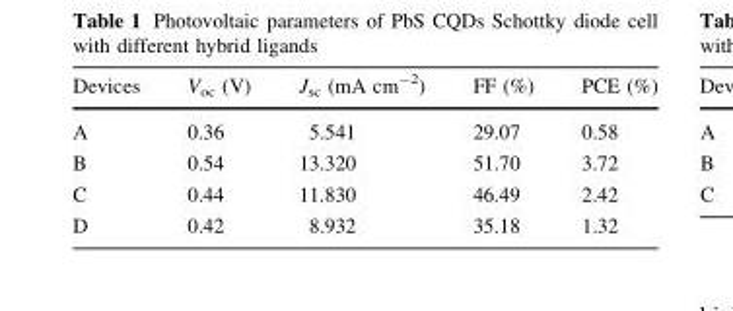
<table><thead><tr><td>Devices</td><td>V<sub>oc</sub> (V)</td><td>J<sub>sc</sub> (mA cm<sup>-2</sup>)</td><td>FF (%)</td><td>PCE (%)</td></tr></thead><tbody><tr><td>A</td><td>0.36</td><td>5.541</td><td>29.07</td><td>0.58</td></tr><tr><td>B</td><td>0.54</td><td>13.320</td><td>51.70</td><td>3.72</td></tr><tr><td>C</td><td>0.44</td><td>11.830</td><td>46.49</td><td>2.42</td></tr><tr><td>D</td><td>0.42</td><td>8.932</td><td>35.18</td><td>1.32</td></tr></tbody></table>